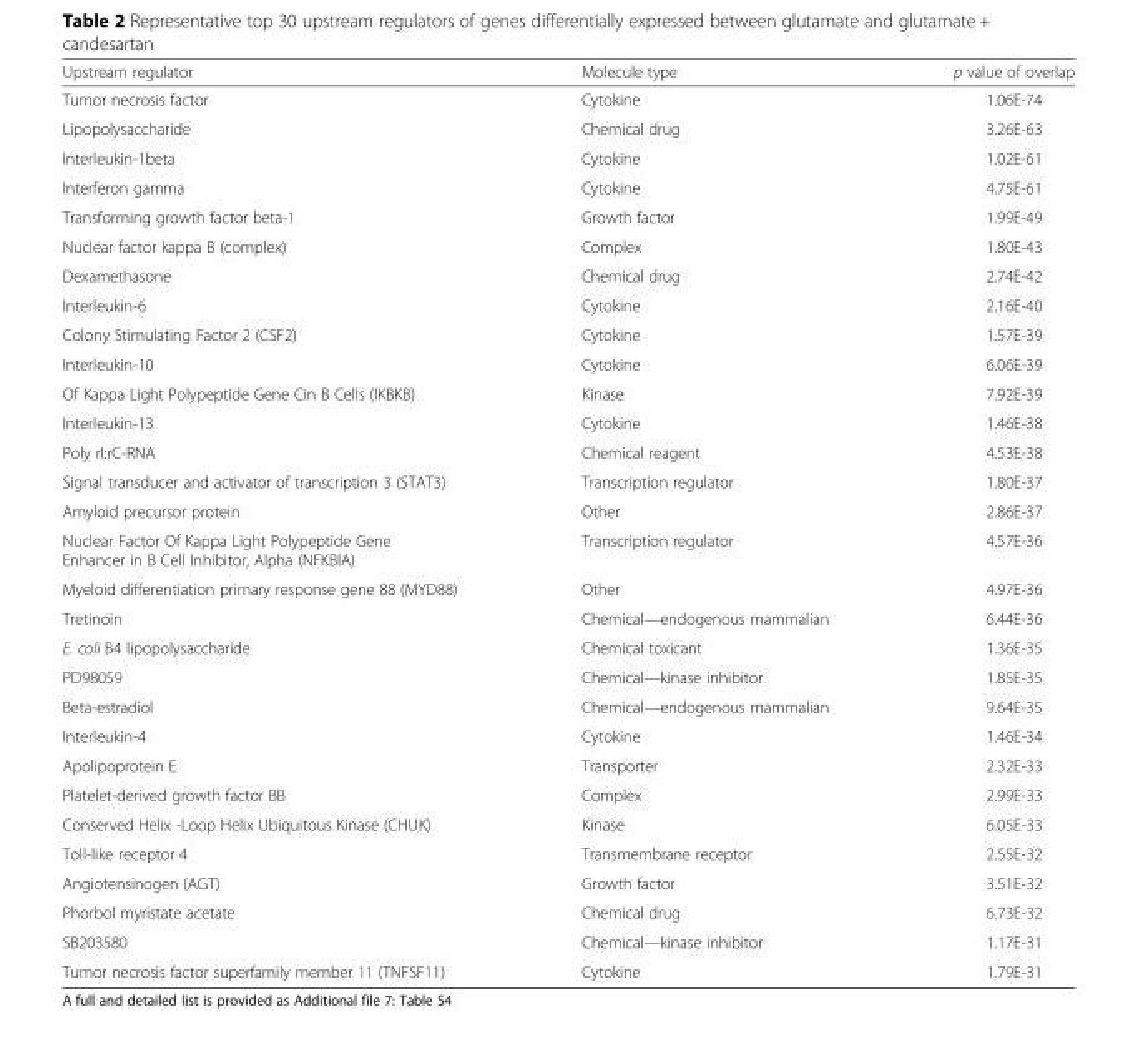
<table><thead><tr><td>Upstream regulator</td><td>Molecule type</td><td>p value of overlap</td></tr></thead><tbody><tr><td>Tumor necrosis factor</td><td>Cytokine</td><td>1.06E-74</td></tr><tr><td>Lipopolysaccharide</td><td>Chemical drug</td><td>3.26E-63</td></tr><tr><td>Interleukin-1beta</td><td>Cytokine</td><td>1.02E-61</td></tr><tr><td>Interferon gamma</td><td>Cytokine</td><td>4.75E-61</td></tr><tr><td>Transforming growth factor beta-1</td><td>Growth factor</td><td>1.99E-49</td></tr><tr><td>Nuclear factor kappa B (complex)</td><td>Complex</td><td>1.80E-43</td></tr><tr><td>Dexamethasone</td><td>Chemical drug</td><td>2.74E-42</td></tr><tr><td>Interleukin-6</td><td>Cytokine</td><td>2.16E-40</td></tr><tr><td>Colony Stimulating Factor 2 (CSF2)</td><td>Cytokine</td><td>1.57E-39</td></tr><tr><td>Interleukin-10</td><td>Cytokine</td><td>6.06E-39</td></tr><tr><td>Of Kappa Light Polypeptide Gene Cin B Cells (IKBKB)</td><td>Kinase</td><td>7.92E-39</td></tr><tr><td>Interleukin-13</td><td>Cytokine</td><td>1.46E-38</td></tr><tr><td>Poly rI:rC-RNA</td><td>Chemical reagent</td><td>4.53E-38</td></tr><tr><td>Signal transducer and activator of transcription 3 (STAT3)</td><td>Transcription regulator</td><td>1.80E-37</td></tr><tr><td>Amyloid precursor protein</td><td>Other</td><td>2.86E-37</td></tr><tr><td>Nuclear Factor Of Kappa Light Polypeptide Gene Enhancer in B Cell Inhibitor, Alpha (NFKBIA)</td><td>Transcription regulator</td><td>4.57E-36</td></tr><tr><td>Myeloid differentiation primary response gene 88 (MYD88)</td><td>Other</td><td>4.97E-36</td></tr><tr><td>Tretinoin</td><td>Chemical—endogenous mammalian</td><td>6.44E-36</td></tr><tr><td>E. coli B4 lipopolysaccharide</td><td>Chemical toxicant</td><td>1.36E-35</td></tr><tr><td>PD98059</td><td>Chemical—kinase inhibitor</td><td>1.85E-35</td></tr><tr><td>Beta-estradiol</td><td>Chemical—endogenous mammalian</td><td>9.64E-35</td></tr><tr><td>Interleukin-4</td><td>Cytokine</td><td>1.46E-34</td></tr><tr><td>Apolipoprotein E</td><td>Transporter</td><td>2.32E-33</td></tr><tr><td>Platelet-derived growth factor BB</td><td>Complex</td><td>2.99E-33</td></tr><tr><td>Conserved Helix -Loop Helix Ubiquitous Kinase (CHUK)</td><td>Kinase</td><td>6.05E-33</td></tr><tr><td>Toll-like receptor 4</td><td>Transmembrane receptor</td><td>2.55E-32</td></tr><tr><td>Angiotensinogen (AGT)</td><td>Growth factor</td><td>3.51E-32</td></tr><tr><td>Phorbol myristate acetate</td><td>Chemical drug</td><td>6.73E-32</td></tr><tr><td>SB203580</td><td>Chemical—kinase inhibitor</td><td>1.17E-31</td></tr><tr><td>Tumor necrosis factor superfamily member 11 (TNFSF11)</td><td>Cytokine</td><td>1.79E-31</td></tr></tbody></table>